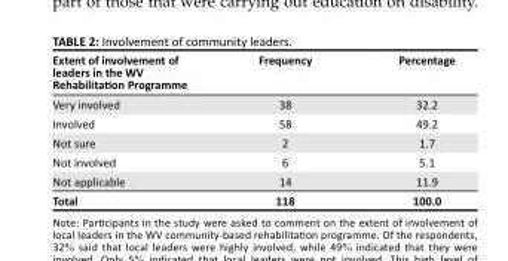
<table><thead><tr><td>Extent of involvement of leaders in the WV Rehabilitation Programme</td><td>Frequency</td><td>Percentage</td></tr></thead><tbody><tr><td>Very involved</td><td>38</td><td>32.2</td></tr><tr><td>Involved</td><td>58</td><td>49.2</td></tr><tr><td>Not sure</td><td>2</td><td>1.7</td></tr><tr><td>Not involved</td><td>6</td><td>5.1</td></tr><tr><td>Not applicable</td><td>14</td><td>11.9</td></tr><tr><td>Total</td><td>118</td><td>100.0</td></tr></tbody></table>